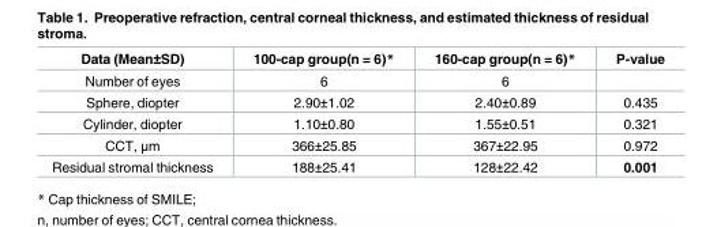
<table><thead><tr><td>Data (Mean±SD)</td><td>100-cap group(n = 6)*</td><td>160-cap group(n = 6)*</td><td>P-value</td></tr></thead><tbody><tr><td>Number of eyes</td><td>6</td><td>6</td><td></td></tr><tr><td>Sphere, diopter</td><td>2.90±1.02</td><td>2.40±0.89</td><td>0.435</td></tr><tr><td>Cylinder, diopter</td><td>1.10±0.80</td><td>1.55±0.51</td><td>0.321</td></tr><tr><td>CCT, μm</td><td>366±25.85</td><td>367±22.95</td><td>0.972</td></tr><tr><td>Residual stromal thickness</td><td>188±25.41</td><td>128±22.42</td><td>0.001</td></tr></tbody></table>